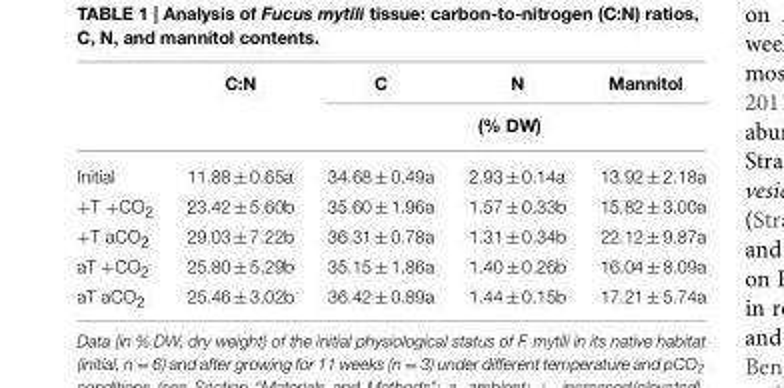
<table><thead><tr><td rowspan="2"></td><td rowspan="2">C:N</td><td>C</td><td>N</td><td>Mannitol</td></tr><tr><td colspan="3">(% DW)</td></tr></thead><tbody><tr><td>Initial</td><td>11.88 ± 0.65a</td><td>34.68 ± 0.49a</td><td>2.93 ± 0.14a</td><td>13.92 ± 2.18a</td></tr><tr><td>+T +CO<sub>2</sub></td><td>23.42 ± 5.60b</td><td>35.60 ± 1.96a</td><td>1.57 ± 0.33b</td><td>15.82 ± 3.00a</td></tr><tr><td>+T aCO<sub>2</sub></td><td>29.03 ± 7.22b</td><td>36.31 ± 0.78a</td><td>1.31 ± 0.34b</td><td>22.12 ± 9.87a</td></tr><tr><td>aT +CO<sub>2</sub></td><td>25.80 ± 5.29b</td><td>35.15 ± 1.86a</td><td>1.40 ± 0.26b</td><td>16.04 ± 8.09a</td></tr><tr><td>aT aCO<sub>2</sub></td><td>25.46 ± 3.02b</td><td>36.42 ± 0.89a</td><td>1.44 ± 0.15b</td><td>17.21 ± 5.74a</td></tr></tbody></table>